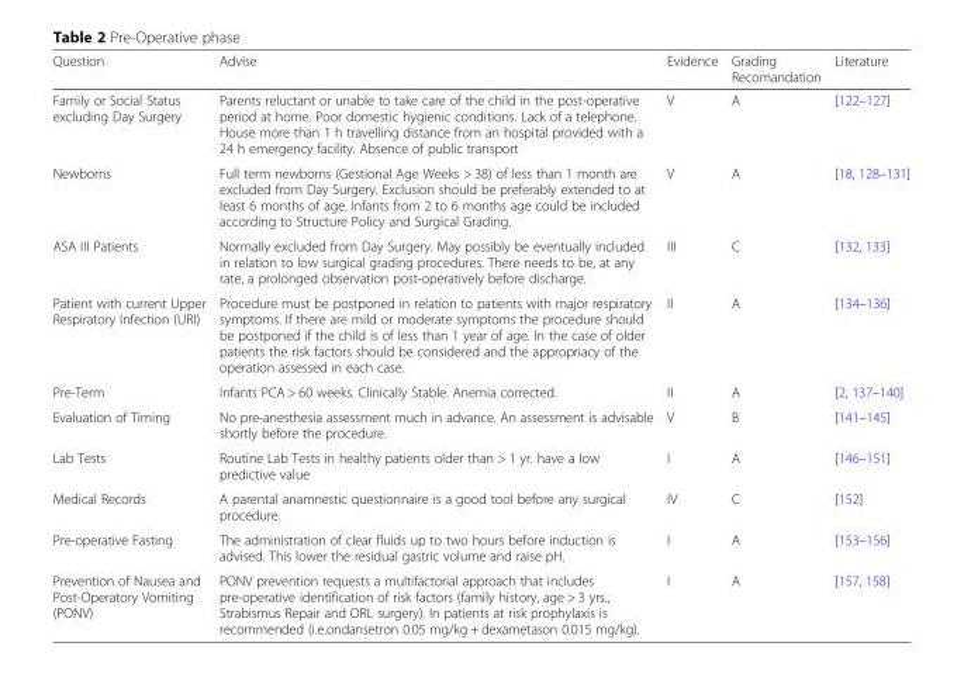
<table><thead><tr><td>Question</td><td>Advise</td><td>Evidence</td><td>Grading Recomandation</td><td>Literature</td></tr></thead><tbody><tr><td>Family or Social Status excluding Day Surgery</td><td>Parents reluctant or unable to take care of the child in the post-operative period at home. Poor domestic hygienic conditions. Lack of a telephone. House more than 1 h travelling distance from an hospital provided with a 24 h emergency facility. Absence of public transport</td><td>V</td><td>A</td><td>[122–127]</td></tr><tr><td>Newborns</td><td>Full term newborns (Gestional Age Weeks &gt; 38) of less than 1 month are excluded from Day Surgery. Exclusion should be preferably extended to at least 6 months of age. Infants from 2 to 6 months age could be included according to Structure Policy and Surgical Grading.</td><td>V</td><td>A</td><td>[18, 128–131]</td></tr><tr><td>ASA III Patients</td><td>Normally excluded from Day Surgery. May possibly be eventually included in relation to low surgical grading procedures. There needs to be, at any rate, a prolonged observation post-operatively before discharge.</td><td>III</td><td>C</td><td>[132, 133]</td></tr><tr><td>Patient with current Upper Respiratory Infection (URI)</td><td>Procedure must be postponed in relation to patients with major respiratory symptoms. If there are mild or moderate symptoms the procedure should be postponed if the child is of less than 1 year of age. In the case of older patients the risk factors should be considered and the appropriacy of the operation assessed in each case.</td><td>II</td><td>A</td><td>[134–136]</td></tr><tr><td>Pre-Term</td><td>Infants PCA &gt; 60 weeks. Clinically Stable. Anemia corrected.</td><td>II</td><td>A</td><td>[2, 137–140]</td></tr><tr><td>Evaluation of Timing</td><td>No pre-anesthesia assessment much in advance. An assessment is advisable shortly before the procedure.</td><td>V</td><td>B</td><td>[141–145]</td></tr><tr><td>Lab Tests</td><td>Routine Lab Tests in healthy patients older than &gt; 1 yr. have a low predictive value</td><td>I</td><td>A</td><td>[146–151]</td></tr><tr><td>Medical Records</td><td>A parental anamnestic questionnaire is a good tool before any surgical procedure.</td><td>IV</td><td>C</td><td>[152]</td></tr><tr><td>Pre-operative Fasting</td><td>The administration of clear fluids up to two hours before induction is advised. This lower the residual gastric volume and raise pH.</td><td>I</td><td>A</td><td>[153–156]</td></tr><tr><td>Prevention of Nausea and Post-Operatory Vomiting (PONV)</td><td>PONV prevention requests a multifactorial approach that includes pre-operative identification of risk factors (family history, age &gt; 3 yrs., Strabismus Repair and ORL surgery). In patients at risk prophylaxis is recommended (i.e.ondansetron 0.05 mg/kg + dexametason 0.015 mg/kg).</td><td>I</td><td>A</td><td>[157, 158]</td></tr></tbody></table>